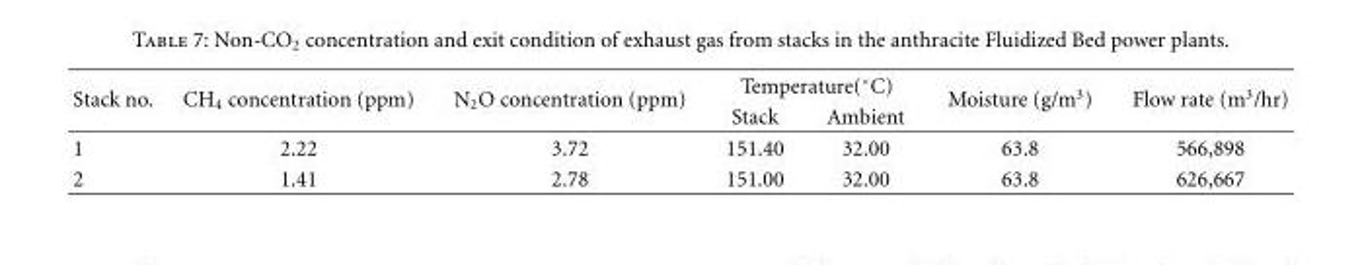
<table><thead><tr><td rowspan="2">Stack no.</td><td rowspan="2">CH<sub>4</sub> concentration (ppm)</td><td rowspan="2">N<sub>2</sub>O concentration (ppm)</td><td colspan="2">Temperature(◦C)</td><td rowspan="2">Moisture (g/m<sup>3</sup>)</td><td rowspan="2">Flow rate (m<sup>3</sup>/hr)</td></tr><tr><td>Stack</td><td>Ambient</td></tr></thead><tbody><tr><td>1</td><td>2.22</td><td>3.72</td><td>151.40</td><td>32.00</td><td>63.8</td><td>566,898</td></tr><tr><td>2</td><td>1.41</td><td>2.78</td><td>151.00</td><td>32.00</td><td>63.8</td><td>626,667</td></tr></tbody></table>